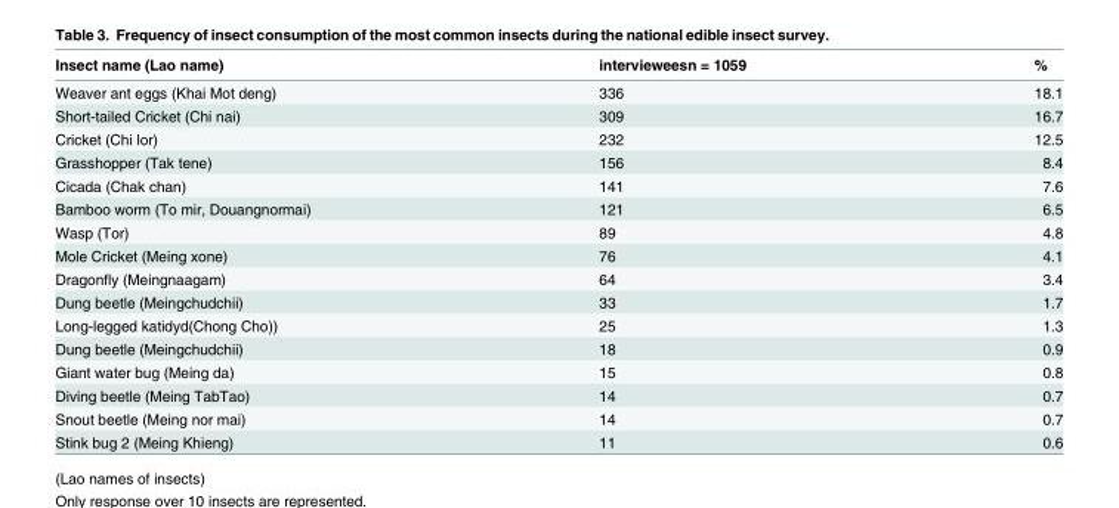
<table><thead><tr><td>Insect name (Lao name)</td><td>intervieweesn = 1059</td><td>%</td></tr></thead><tbody><tr><td>Weaver ant eggs (Khai Mot deng)</td><td>336</td><td>18.1</td></tr><tr><td>Short-tailed Cricket (Chi nai)</td><td>309</td><td>16.7</td></tr><tr><td>Cricket (Chi lor)</td><td>232</td><td>12.5</td></tr><tr><td>Grasshopper (Tak tene)</td><td>156</td><td>8.4</td></tr><tr><td>Cicada (Chak chan)</td><td>141</td><td>7.6</td></tr><tr><td>Bamboo worm (To mir, Douangnormai)</td><td>121</td><td>6.5</td></tr><tr><td>Wasp (Tor)</td><td>89</td><td>4.8</td></tr><tr><td>Mole Cricket (Meing xone)</td><td>76</td><td>4.1</td></tr><tr><td>Dragonfly (Meingnaagam)</td><td>64</td><td>3.4</td></tr><tr><td>Dung beetle (Meingchudchii)</td><td>33</td><td>1.7</td></tr><tr><td>Long-legged katidyd(Chong Cho))</td><td>25</td><td>1.3</td></tr><tr><td>Dung beetle (Meingchudchii)</td><td>18</td><td>0.9</td></tr><tr><td>Giant water bug (Meing da)</td><td>15</td><td>0.8</td></tr><tr><td>Diving beetle (Meing TabTao)</td><td>14</td><td>0.7</td></tr><tr><td>Snout beetle (Meing nor mai)</td><td>14</td><td>0.7</td></tr><tr><td>Stink bug 2 (Meing Khieng)</td><td>11</td><td>0.6</td></tr></tbody></table>